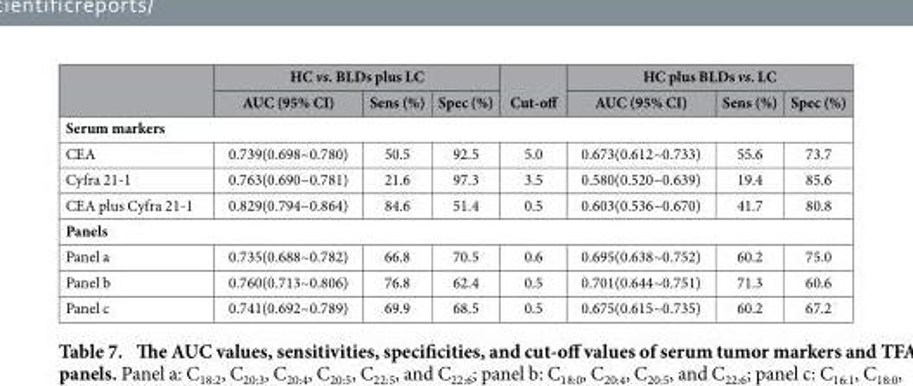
<table><thead><tr><td rowspan="2"></td><td colspan="3">HC vs. BLDs plus LC</td><td rowspan="2">Cut-off</td><td colspan="3">HC plus BLDs vs. LC</td></tr><tr><td>AUC (95% CI)</td><td>Sens (%)</td><td>Spec (%)</td><td>AUC (95% CI)</td><td>Sens (%)</td><td>Spec (%)</td></tr></thead><tbody><tr><td colspan="8">Serum markers</td></tr><tr><td>CEA</td><td>0.739(0.698~0.780)</td><td>50.5</td><td>92.5</td><td>5.0</td><td>0.673(0.612~0.733)</td><td>55.6</td><td>73.7</td></tr><tr><td>Cyfra 21-1</td><td>0.763(0.690~0.781)</td><td>21.6</td><td>97.3</td><td>3.5</td><td>0.580(0.520~0.639)</td><td>19.4</td><td>85.6</td></tr><tr><td>CEA plus Cyfra 21-1</td><td>0.829(0.794~0.864)</td><td>84.6</td><td>51.4</td><td>0.5</td><td>0.603(0.536~0.670)</td><td>41.7</td><td>80.8</td></tr><tr><td colspan="8">Panels</td></tr><tr><td>Panel a</td><td>0.735(0.688~0.782)</td><td>66.8</td><td>70.5</td><td>0.6</td><td>0.695(0.638~0.752)</td><td>60.2</td><td>75.0</td></tr><tr><td>Panel b</td><td>0.760(0.713~0.806)</td><td>76.8</td><td>62.4</td><td>0.5</td><td>0.701(0.644~0.751)</td><td>71.3</td><td>60.6</td></tr><tr><td>Panel c</td><td>0.741(0.692~0.789)</td><td>69.9</td><td>68.5</td><td>0.5</td><td>0.675(0.615~0.735)</td><td>60.2</td><td>67.2</td></tr></tbody></table>